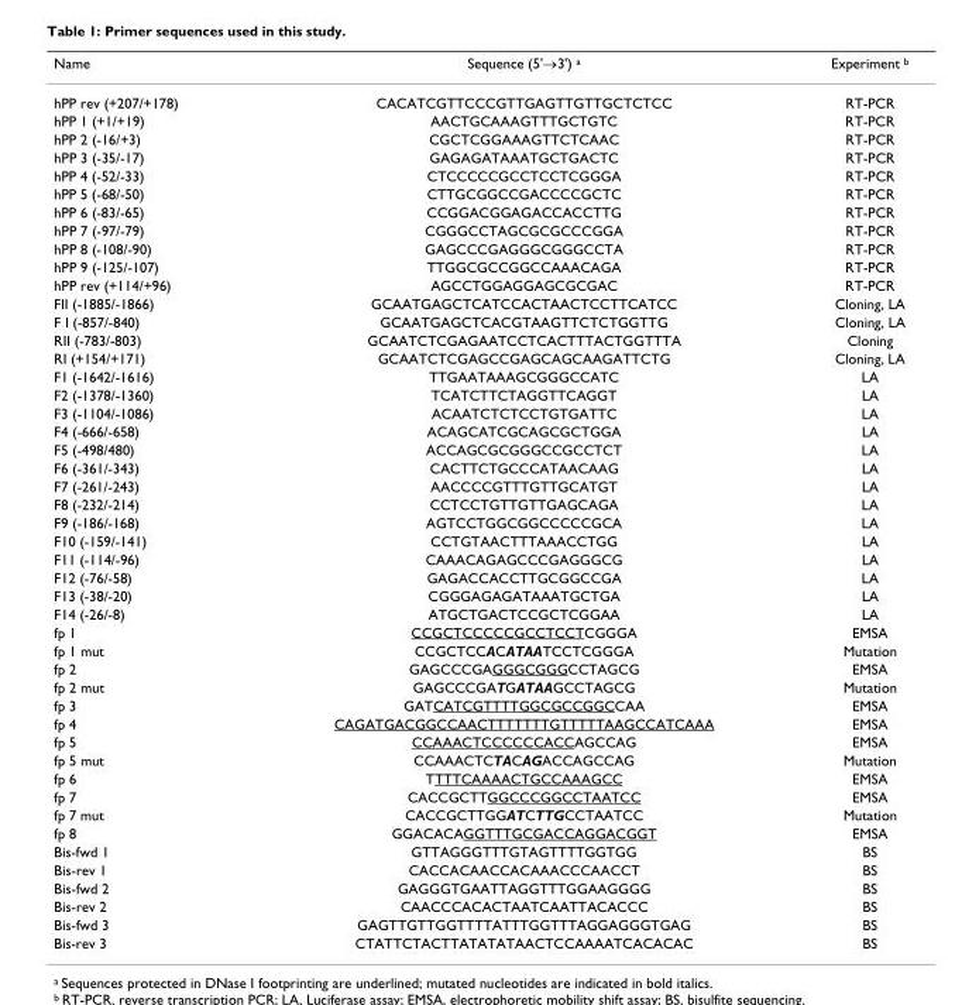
<table><thead><tr><td>Name</td><td>Sequence (5&#x27;→3&#x27;) <sup>a</sup></td><td>Experiment <sup>b</sup></td></tr></thead><tbody><tr><td>hPP rev (+207/+178)</td><td>CACATCGTTCCCGTTGAGTTGTTGCTCTCC</td><td>RT-PCR</td></tr><tr><td>hPP 1 (+1/+19)</td><td>AACTGCAAAGTTTGCTGTC</td><td>RT-PCR</td></tr><tr><td>hPP 2 (-16/+3)</td><td>CGCTCGGAAAGTTCTCAAC</td><td>RT-PCR</td></tr><tr><td>hPP 3 (-35/-17)</td><td>GAGAGATAAATGCTGACTC</td><td>RT-PCR</td></tr><tr><td>hPP 4 (-52/-33)</td><td>CTCCCCCGCCTCCTCGGGA</td><td>RT-PCR</td></tr><tr><td>hPP 5 (-68/-50)</td><td>CTTGCGGCCGACCCCGCTC</td><td>RT-PCR</td></tr><tr><td>hPP 6 (-83/-65)</td><td>CCGGACGGAGACCACCTTG</td><td>RT-PCR</td></tr><tr><td>hPP 7 (-97/-79)</td><td>CGGGCCTAGCGCGCCCGGA</td><td>RT-PCR</td></tr><tr><td>hPP 8 (-108/-90)</td><td>GAGCCCGAGGGCGGGCCTA</td><td>RT-PCR</td></tr><tr><td>hPP 9 (-125/-107)</td><td>TTGGCGCCGGCCAAACAGA</td><td>RT-PCR</td></tr><tr><td>hPP rev (+114/+96)</td><td>AGCCTGGAGGAGCGCGAC</td><td>RT-PCR</td></tr><tr><td>FII (-1885/-1866)</td><td>GCAATGAGCTCATCCACTAACTCCTTCATCC</td><td>Cloning, LA</td></tr><tr><td>F I (-857/-840)</td><td>GCAATGAGCTCACGTAAGTTCTCTGGTTG</td><td>Cloning, LA</td></tr><tr><td>RII (-783/-803)</td><td>GCAATCTCGAGAATCCTCACTTTACTGGTTTA</td><td>Cloning</td></tr><tr><td>RI (+154/+171)</td><td>GCAATCTCGAGCCGAGCAGCAAGATTCTG</td><td>Cloning, LA</td></tr><tr><td>F1 (-1642/-1616)</td><td>TTGAATAAAGCGGGCCATC</td><td>LA</td></tr><tr><td>F2 (-1378/-1360)</td><td>TCATCTTCTAGGTTCAGGT</td><td>LA</td></tr><tr><td>F3 (-1104/-1086)</td><td>ACAATCTCTCCTGTGATTC</td><td>LA</td></tr><tr><td>F4 (-666/-658)</td><td>ACAGCATCGCAGCGCTGGA</td><td>LA</td></tr><tr><td>F5 (-498/480)</td><td>ACCAGCGCGGGCCGCCTCT</td><td>LA</td></tr><tr><td>F6 (-361/-343)</td><td>CACTTCTGCCCATAACAAG</td><td>LA</td></tr><tr><td>F7 (-261/-243)</td><td>AACCCCGTTTGTTGCATGT</td><td>LA</td></tr><tr><td>F8 (-232/-214)</td><td>CCTCCTGTTGTTGAGCAGA</td><td>LA</td></tr><tr><td>F9 (-186/-168)</td><td>AGTCCTGGCGGCCCCCGCA</td><td>LA</td></tr><tr><td>F10 (-159/-141)</td><td>CCTGTAACTTTAAACCTGG</td><td>LA</td></tr><tr><td>F11 (-114/-96)</td><td>CAAACAGAGCCCGAGGGCG</td><td>LA</td></tr><tr><td>F12 (-76/-58)</td><td>GAGACCACCTTGCGGCCGA</td><td>LA</td></tr><tr><td>F13 (-38/-20)</td><td>CGGGAGAGATAAATGCTGA</td><td>LA</td></tr><tr><td>F14 (-26/-8)</td><td>ATGCTGACTCCGCTCGGAA</td><td>LA</td></tr><tr><td>fp 1</td><td>CCGCTCCCCCGCCTCCTCGGGA</td><td>EMSA</td></tr><tr><td>fp 1 mut</td><td>CCGCTCCACATAATCCTCGGGA</td><td>Mutation</td></tr><tr><td>fp 2</td><td>GAGCCCGAGGGCGGGCCTAGCG</td><td>EMSA</td></tr><tr><td>fp 2 mut</td><td>GAGCCCGATGATAAGCCTAGCG</td><td>Mutation</td></tr><tr><td>fp 3</td><td>GATCATCGTTTTGGCGCCGGCCAA</td><td>EMSA</td></tr><tr><td>fp 4</td><td>CAGATGACGGCCAACTTTTTTTGTTTTTAAGCCATCAAA</td><td>EMSA</td></tr><tr><td>fp 5</td><td>CCAAACTCCCCCCACCAGCCAG</td><td>EMSA</td></tr><tr><td>fp 5 mut</td><td>CCAAACTCTACAGACCAGCCAG</td><td>Mutation</td></tr><tr><td>fp 6</td><td>TTTTCAAAACTGCCAAAGCC</td><td>EMSA</td></tr><tr><td>fp 7</td><td>CACCGCTTGGCCCGGCCTAATCC</td><td>EMSA</td></tr><tr><td>fp 7 mut</td><td>CACCGCTTGGATCTTGCCTAATCC</td><td>Mutation</td></tr><tr><td>fp 8</td><td>GGACACAGGTTTGCGACCAGGACGGT</td><td>EMSA</td></tr><tr><td>Bis-fwd 1</td><td>GTTAGGGTTTGTAGTTTTGGTGG</td><td>BS</td></tr><tr><td>Bis-rev 1</td><td>CACCACAACCACAAACCCAACCT</td><td>BS</td></tr><tr><td>Bis-fwd 2</td><td>GAGGGTGAATTAGGTTTGGAAGGGG</td><td>BS</td></tr><tr><td>Bis-rev 2</td><td>CAACCCACACTAATCAATTACACCC</td><td>BS</td></tr><tr><td>Bis-fwd 3</td><td>GAGTTGTTGGTTTTATTTGGTTTAGGAGGGTGAG</td><td>BS</td></tr><tr><td>Bis-rev 3</td><td>CTATTCTACTTATATATAACTCCAAAATCACACAC</td><td>BS</td></tr></tbody></table>